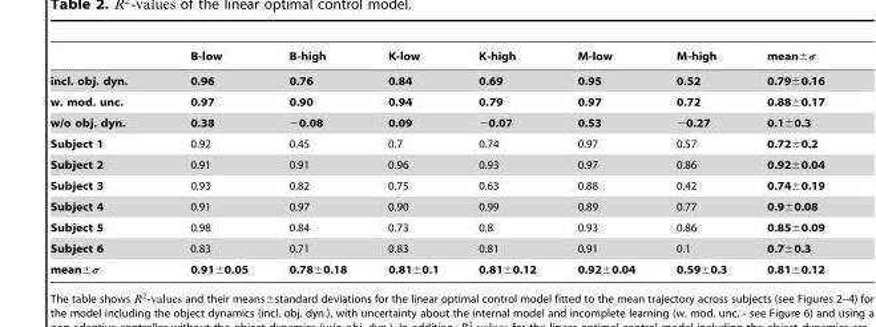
<table><thead><tr><td></td><td>B-low</td><td>B-high</td><td>K-low</td><td>K-high</td><td>M-low</td><td>M-high</td><td>mean±σ</td></tr></thead><tbody><tr><td>incl. obj. dyn.</td><td>0.96</td><td>0.76</td><td>0.84</td><td>0.69</td><td>0.95</td><td>0.52</td><td>0.79±0.16</td></tr><tr><td>w. mod. unc.</td><td>0.97</td><td>0.90</td><td>0.94</td><td>0.79</td><td>0.97</td><td>0.72</td><td>0.88±0.17</td></tr><tr><td>w/o obj. dyn.</td><td>0.38</td><td>−0.08</td><td>0.09</td><td>−0.07</td><td>0.53</td><td>−0.27</td><td>0.1±0.3</td></tr><tr><td>Subject 1</td><td>0.92</td><td>0.45</td><td>0.7</td><td>0.74</td><td>0.97</td><td>0.57</td><td>0.72±0.2</td></tr><tr><td>Subject 2</td><td>0.91</td><td>0.91</td><td>0.96</td><td>0.93</td><td>0.97</td><td>0.86</td><td>0.92±0.04</td></tr><tr><td>Subject 3</td><td>0.93</td><td>0.82</td><td>0.75</td><td>0.63</td><td>0.88</td><td>0.42</td><td>0.74±0.19</td></tr><tr><td>Subject 4</td><td>0.91</td><td>0.97</td><td>0.90</td><td>0.99</td><td>0.89</td><td>0.77</td><td>0.9±0.08</td></tr><tr><td>Subject 5</td><td>0.98</td><td>0.84</td><td>0.73</td><td>0.8</td><td>0.93</td><td>0.86</td><td>0.85±0.09</td></tr><tr><td>Subject 6</td><td>0.83</td><td>0.71</td><td>0.83</td><td>0.81</td><td>0.91</td><td>0.1</td><td>0.7±0.3</td></tr><tr><td>mean±σ</td><td>0.91±0.05</td><td>0.78±0.18</td><td>0.81±0.1</td><td>0.81±0.12</td><td>0.92±0.04</td><td>0.59±0.3</td><td>0.81±0.12</td></tr></tbody></table>